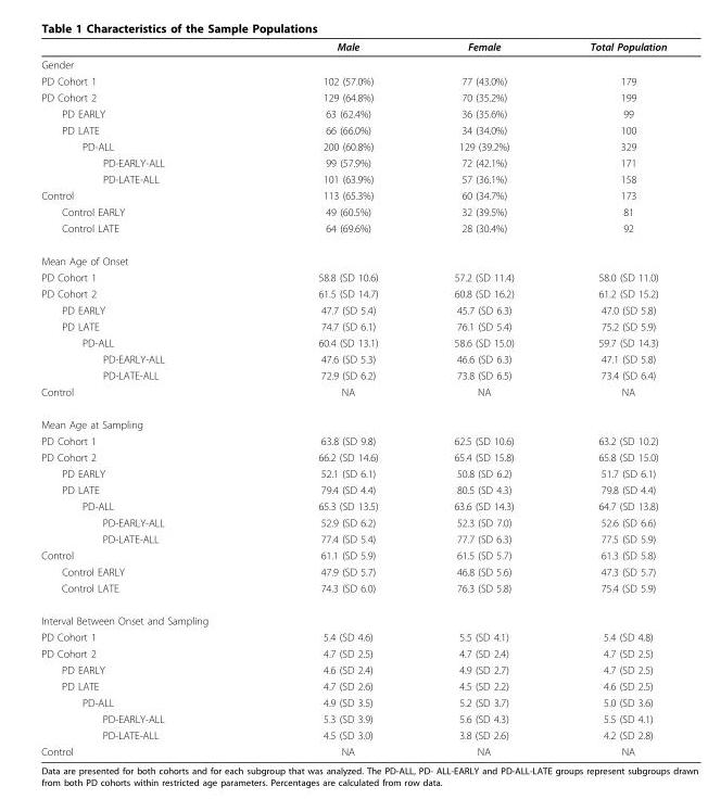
<table><thead><tr><td></td><td>Male</td><td>Female</td><td>Total Population</td></tr></thead><tbody><tr><td colspan="4">Gender</td></tr><tr><td>PD Cohort 1</td><td>102 (57.0%)</td><td>77 (43.0%)</td><td>179</td></tr><tr><td>PD Cohort 2</td><td>129 (64.8%)</td><td>70 (35.2%)</td><td>199</td></tr><tr><td>PD EARLY</td><td>63 (62.4%)</td><td>36 (35.6%)</td><td>99</td></tr><tr><td>PD LATE</td><td>66 (66.0%)</td><td>34 (34.0%)</td><td>100</td></tr><tr><td>PD-ALL</td><td>200 (60.8%)</td><td>129 (39.2%)</td><td>329</td></tr><tr><td>PD-EARLY-ALL</td><td>99 (57.9%)</td><td>72 (42.1%)</td><td>171</td></tr><tr><td>PD-LATE-ALL</td><td>101 (63.9%)</td><td>57 (36.1%)</td><td>158</td></tr><tr><td>Control</td><td>113 (65.3%)</td><td>60 (34.7%)</td><td>173</td></tr><tr><td>Control EARLY</td><td>49 (60.5%)</td><td>32 (39.5%)</td><td>81</td></tr><tr><td>Control LATE</td><td>64 (69.6%)</td><td>28 (30.4%)</td><td>92</td></tr><tr><td colspan="4">Mean Age of Onset</td></tr><tr><td>PD Cohort 1</td><td>58.8 (SD 10.6)</td><td>57.2 (SD 11.4)</td><td>58.0 (SD 11.0)</td></tr><tr><td>PD Cohort 2</td><td>61.5 (SD 14.7)</td><td>60.8 (SD 16.2)</td><td>61.2 (SD 15.2)</td></tr><tr><td>PD EARLY</td><td>47.7 (SD 5.4)</td><td>45.7 (SD 6.3)</td><td>47.0 (SD 5.8)</td></tr><tr><td>PD LATE</td><td>74.7 (SD 6.1)</td><td>76.1 (SD 5.4)</td><td>75.2 (SD 5.9)</td></tr><tr><td>PD-ALL</td><td>60.4 (SD 13.1)</td><td>58.6 (SD 15.0)</td><td>59.7 (SD 14.3)</td></tr><tr><td>PD-EARLY-ALL</td><td>47.6 (SD 5.3)</td><td>46.6 (SD 6.3)</td><td>47.1 (SD 5.8)</td></tr><tr><td>PD-LATE-ALL</td><td>72.9 (SD 6.2)</td><td>73.8 (SD 6.5)</td><td>73.4 (SD 6.4)</td></tr><tr><td>Control</td><td>NA</td><td>NA</td><td>NA</td></tr><tr><td colspan="4">Mean Age at Sampling</td></tr><tr><td>PD Cohort 1</td><td>63.8 (SD 9.8)</td><td>62.5 (SD 10.6)</td><td>63.2 (SD 10.2)</td></tr><tr><td>PD Cohort 2</td><td>66.2 (SD 14.6)</td><td>65.4 (SD 15.8)</td><td>65.8 (SD 15.0)</td></tr><tr><td>PD EARLY</td><td>52.1 (SD 6.1)</td><td>50.8 (SD 6.2)</td><td>51.7 (SD 6.1)</td></tr><tr><td>PD LATE</td><td>79.4 (SD 4.4)</td><td>80.5 (SD 4.3)</td><td>79.8 (SD 4.4)</td></tr><tr><td>PD-ALL</td><td>65.3 (SD 13.5)</td><td>63.6 (SD 14.3)</td><td>64.7 (SD 13.8)</td></tr><tr><td>PD-EARLY-ALL</td><td>52.9 (SD 6.2)</td><td>52.3 (SD 7.0)</td><td>52.6 (SD 6.6)</td></tr><tr><td>PD-LATE-ALL</td><td>77.4 (SD 5.4)</td><td>77.7 (SD 6.3)</td><td>77.5 (SD 5.9)</td></tr><tr><td>Control</td><td>61.1 (SD 5.9)</td><td>61.5 (SD 5.7)</td><td>61.3 (SD 5.8)</td></tr><tr><td>Control EARLY</td><td>47.9 (SD 5.7)</td><td>46.8 (SD 5.6)</td><td>47.3 (SD 5.7)</td></tr><tr><td>Control LATE</td><td>74.3 (SD 6.0)</td><td>76.3 (SD 5.8)</td><td>75.4 (SD 5.9)</td></tr><tr><td colspan="4">Interval Between Onset and Sampling</td></tr><tr><td>PD Cohort 1</td><td>5.4 (SD 4.6)</td><td>5.5 (SD 4.1)</td><td>5.4 (SD 4.8)</td></tr><tr><td>PD Cohort 2</td><td>4.7 (SD 2.5)</td><td>4.7 (SD 2.4)</td><td>4.7 (SD 2.5)</td></tr><tr><td>PD EARLY</td><td>4.6 (SD 2.4)</td><td>4.9 (SD 2.7)</td><td>4.7 (SD 2.5)</td></tr><tr><td>PD LATE</td><td>4.7 (SD 2.6)</td><td>4.5 (SD 2.2)</td><td>4.6 (SD 2.5)</td></tr><tr><td>PD-ALL</td><td>4.9 (SD 3.5)</td><td>5.2 (SD 3.7)</td><td>5.0 (SD 3.6)</td></tr><tr><td>PD-EARLY-ALL</td><td>5.3 (SD 3.9)</td><td>5.6 (SD 4.3)</td><td>5.5 (SD 4.1)</td></tr><tr><td>PD-LATE-ALL</td><td>4.5 (SD 3.0)</td><td>3.8 (SD 2.6)</td><td>4.2 (SD 2.8)</td></tr><tr><td>Control</td><td>NA</td><td>NA</td><td>NA</td></tr></tbody></table>